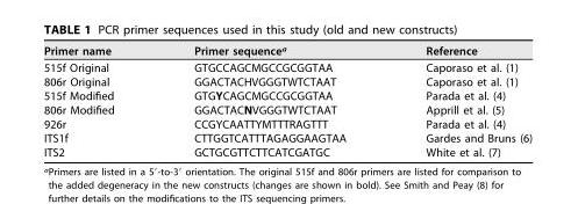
<table><thead><tr><td>Primer name</td><td>Primer sequence<sup>a</sup></td><td>Reference</td></tr></thead><tbody><tr><td>515f Original</td><td>GTGCCAGCMGCCGCGGTAA</td><td>Caporaso et al. (1)</td></tr><tr><td>806r Original</td><td>GGACTACHVGGGTWTCTAAT</td><td>Caporaso et al. (1)</td></tr><tr><td>515f Modified</td><td>GTGYCAGCMGCCGCGGTAA</td><td>Parada et al. (4)</td></tr><tr><td>806r Modified</td><td>GGACTACNVGGGTWTCTAAT</td><td>Apprill et al. (5)</td></tr><tr><td>926r</td><td>CCGYCAATTYMTTTRAGTTT</td><td>Parada et al. (4)</td></tr><tr><td>ITS1f</td><td>CTTGGTCATTTAGAGGAAGTAA</td><td>Gardes and Bruns (6)</td></tr><tr><td>ITS2</td><td>GCTGCGTTCTTCATCGATGC</td><td>White et al. (7)</td></tr></tbody></table>